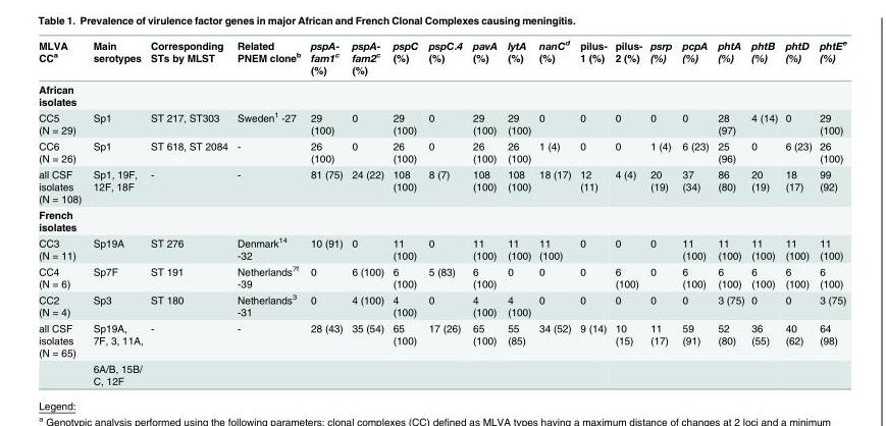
<table><thead><tr><td>MLVA CC<sup>a</sup></td><td>Main serotypes</td><td>Corresponding STs by MLST</td><td>Related PNEM clone<sup>b</sup></td><td>pspA- fam1<sup>c</sup> (%)</td><td>pspA- fam2<sup>c</sup> (%)</td><td>pspC (%)</td><td>pspC.4 (%)</td><td>pavA (%)</td><td>lytA (%)</td><td>nanC<sup>d</sup> (%)</td><td>pilus- 1 (%)</td><td>pilus- 2 (%)</td><td>psrp (%)</td><td>pcpA (%)</td><td>phtA (%)</td><td>phtB (%)</td><td>phtD (%)</td><td>phtE<sup>e</sup> (%)</td></tr></thead><tbody><tr><td colspan="19">African isolates</td></tr><tr><td>CC5 (N = 29)</td><td>Sp1</td><td>ST 217, ST303</td><td>Sweden<sup>1</sup> -27</td><td>29 (100)</td><td>0</td><td>29 (100)</td><td>0</td><td>29 (100)</td><td>29 (100)</td><td>0</td><td>0</td><td>0</td><td>0</td><td>0</td><td>28 (97)</td><td>4 (14)</td><td>0</td><td>29 (100)</td></tr><tr><td>CC6 (N = 26)</td><td>Sp1</td><td>ST 618, ST 2084</td><td>-</td><td>26 (100)</td><td>0</td><td>26 (100)</td><td>0</td><td>26 (100)</td><td>26 (100)</td><td>1 (4)</td><td>0</td><td>0</td><td>1 (4)</td><td>6 (23)</td><td>25 (96)</td><td>0</td><td>6 (23)</td><td>26 (100)</td></tr><tr><td>all CSF isolates (N = 108)</td><td>Sp1, 19F, 12F, 18F</td><td>-</td><td>-</td><td>81 (75)</td><td>24 (22)</td><td>108 (100)</td><td>8 (7)</td><td>108 (100)</td><td>108 (100)</td><td>18 (17)</td><td>12 (11)</td><td>4 (4)</td><td>20 (19)</td><td>37 (34)</td><td>86 (80)</td><td>20 (19)</td><td>18 (17)</td><td>99 (92)</td></tr><tr><td colspan="19">French isolates</td></tr><tr><td>CC3 (N = 11)</td><td>Sp19A</td><td>ST 276</td><td>Denmark<sup>14</sup> -32</td><td>10 (91)</td><td>0</td><td>11 (100)</td><td>0</td><td>11 (100)</td><td>11 (100)</td><td>11 (100)</td><td>0</td><td>0</td><td>0</td><td>11 (100)</td><td>11 (100)</td><td>11 (100)</td><td>11 (100)</td><td>11 (100)</td></tr><tr><td>CC4 (N = 6)</td><td>Sp7F</td><td>ST 191</td><td>Netherlands<sup>7f</sup> -39</td><td>0</td><td>6 (100)</td><td>6 (100)</td><td>5 (83)</td><td>6 (100)</td><td>0</td><td>0</td><td>0</td><td>6 (100)</td><td>0</td><td>6 (100)</td><td>6 (100)</td><td>6 (100)</td><td>6 (100)</td><td>6 (100)</td></tr><tr><td>CC2 (N = 4)</td><td>Sp3</td><td>ST 180</td><td>Netherlands<sup>3</sup> -31</td><td>0</td><td>4 (100)</td><td>4 (100)</td><td>0</td><td>4 (100)</td><td>4 (100)</td><td>0</td><td>0</td><td>0</td><td>0</td><td>0</td><td>3 (75)</td><td>0</td><td>0</td><td>3 (75)</td></tr><tr><td rowspan="2">all CSF isolates (N = 65)</td><td>Sp19A, 7F, 3, 11A,</td><td>-</td><td>-</td><td>28 (43)</td><td>35 (54)</td><td>65 (100)</td><td>17 (26)</td><td>65 (100)</td><td>55 (85)</td><td>34 (52)</td><td>9 (14)</td><td>10 (15)</td><td>11 (17)</td><td>59 (91)</td><td>52 (80)</td><td>36 (55)</td><td>40 (62)</td><td>64 (98)</td></tr><tr><td>6A/B, 15B/ C, 12F</td><td></td><td></td><td></td><td></td><td></td><td></td><td></td><td></td><td></td><td></td><td></td><td></td><td></td><td></td><td></td><td></td><td></td></tr></tbody></table>